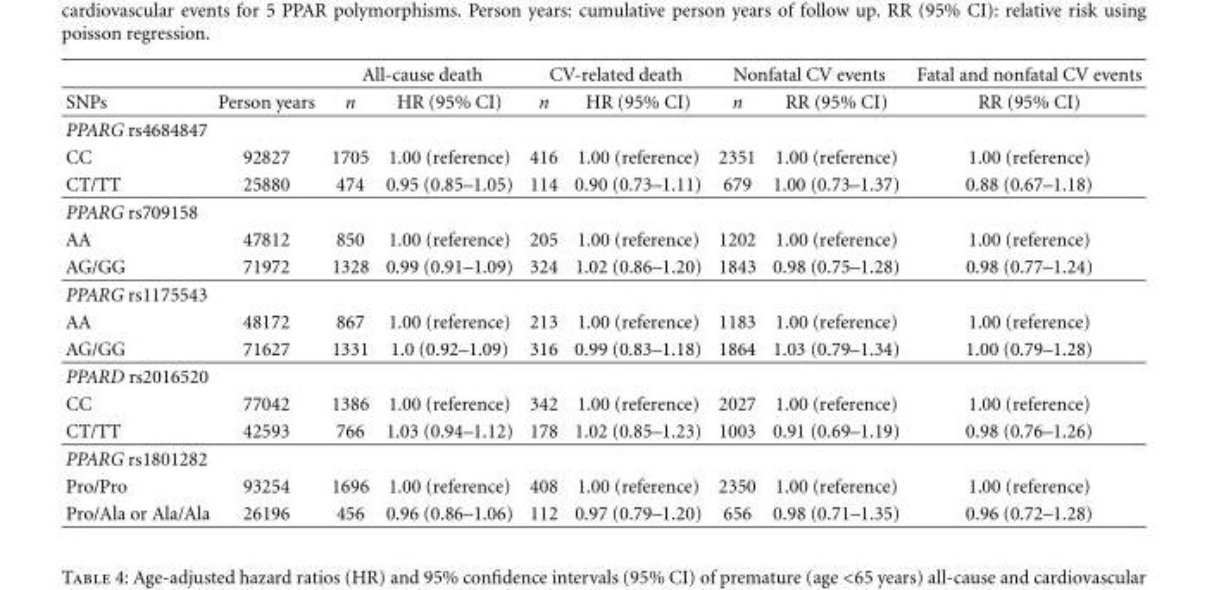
<table><thead><tr><td rowspan="2">SNPs</td><td rowspan="2">Person years</td><td colspan="2">All-cause death</td><td colspan="2">CV-related death</td><td colspan="2">Nonfatal CV events</td><td rowspan="2">Fatal and nonfatal CV events RR (95% CI)</td></tr><tr><td>n</td><td>HR (95% CI)</td><td>n</td><td>HR (95% CI)</td><td>n</td><td>RR (95% CI)</td></tr></thead><tbody><tr><td colspan="9">PPARG rs4684847</td></tr><tr><td>CC</td><td>92827</td><td>1705</td><td>1.00 (reference)</td><td>416</td><td>1.00 (reference)</td><td>2351</td><td>1.00 (reference)</td><td>1.00 (reference)</td></tr><tr><td>CT/TT</td><td>25880</td><td>474</td><td>0.95 (0.85–1.05)</td><td>114</td><td>0.90 (0.73–1.11)</td><td>679</td><td>1.00 (0.73–1.37)</td><td>0.88 (0.67–1.18)</td></tr><tr><td colspan="9">PPARG rs709158</td></tr><tr><td>AA</td><td>47812</td><td>850</td><td>1.00 (reference)</td><td>205</td><td>1.00 (reference)</td><td>1202</td><td>1.00 (reference)</td><td>1.00 (reference)</td></tr><tr><td>AG/GG</td><td>71972</td><td>1328</td><td>0.99 (0.91–1.09)</td><td>324</td><td>1.02 (0.86–1.20)</td><td>1843</td><td>0.98 (0.75–1.28)</td><td>0.98 (0.77–1.24)</td></tr><tr><td colspan="9">PPARG rs1175543</td></tr><tr><td>AA</td><td>48172</td><td>867</td><td>1.00 (reference)</td><td>213</td><td>1.00 (reference)</td><td>1183</td><td>1.00 (reference)</td><td>1.00 (reference)</td></tr><tr><td>AG/GG</td><td>71627</td><td>1331</td><td>1.0 (0.92–1.09)</td><td>316</td><td>0.99 (0.83–1.18)</td><td>1864</td><td>1.03 (0.79–1.34)</td><td>1.00 (0.79–1.28)</td></tr><tr><td colspan="9">PPARD rs2016520</td></tr><tr><td>CC</td><td>77042</td><td>1386</td><td>1.00 (reference)</td><td>342</td><td>1.00 (reference)</td><td>2027</td><td>1.00 (reference)</td><td>1.00 (reference)</td></tr><tr><td>CT/TT</td><td>42593</td><td>766</td><td>1.03 (0.94–1.12)</td><td>178</td><td>1.02 (0.85–1.23)</td><td>1003</td><td>0.91 (0.69–1.19)</td><td>0.98 (0.76–1.26)</td></tr><tr><td colspan="9">PPARG rs1801282</td></tr><tr><td>Pro/Pro</td><td>93254</td><td>1696</td><td>1.00 (reference)</td><td>408</td><td>1.00 (reference)</td><td>2350</td><td>1.00 (reference)</td><td>1.00 (reference)</td></tr><tr><td>Pro/Ala or Ala/Ala</td><td>26196</td><td>456</td><td>0.96 (0.86–1.06)</td><td>112</td><td>0.97 (0.79–1.20)</td><td>656</td><td>0.98 (0.71–1.35)</td><td>0.96 (0.72–1.28)</td></tr></tbody></table>